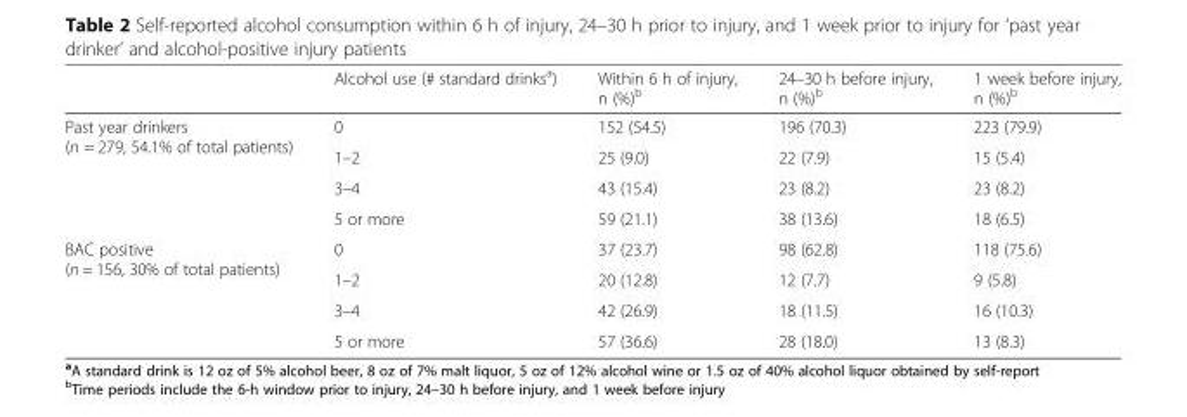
<table><thead><tr><td></td><td>Alcohol use (# standard drinks<sup>a</sup>)</td><td>Within 6 h of injury, n (%)<sup>b</sup></td><td>24–30 h before injury, n (%)<sup>b</sup></td><td>1 week before injury, n (%)<sup>b</sup></td></tr></thead><tbody><tr><td rowspan="4">Past year drinkers (n = 279, 54.1% of total patients)</td><td>0</td><td>152 (54.5)</td><td>196 (70.3)</td><td>223 (79.9)</td></tr><tr><td>1–2</td><td>25 (9.0)</td><td>22 (7.9)</td><td>15 (5.4)</td></tr><tr><td>3–4</td><td>43 (15.4)</td><td>23 (8.2)</td><td>23 (8.2)</td></tr><tr><td>5 or more</td><td>59 (21.1)</td><td>38 (13.6)</td><td>18 (6.5)</td></tr><tr><td rowspan="4">BAC positive (n = 156, 30% of total patients)</td><td>0</td><td>37 (23.7)</td><td>98 (62.8)</td><td>118 (75.6)</td></tr><tr><td>1–2</td><td>20 (12.8)</td><td>12 (7.7)</td><td>9 (5.8)</td></tr><tr><td>3–4</td><td>42 (26.9)</td><td>18 (11.5)</td><td>16 (10.3)</td></tr><tr><td>5 or more</td><td>57 (36.6)</td><td>28 (18.0)</td><td>13 (8.3)</td></tr></tbody></table>